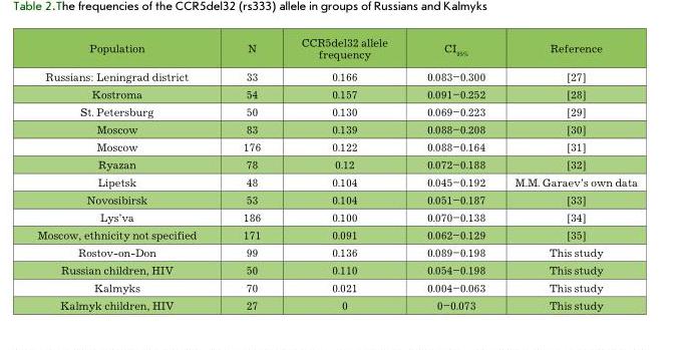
<table><thead><tr><td>Population</td><td>n</td><td>ccr5del32 allele frequency</td><td>cI<sub>95%</sub></td><td>reference</td></tr></thead><tbody><tr><td>russians: Leningrad district</td><td>33</td><td>0.166</td><td>0.083–0.300</td><td>[27]</td></tr><tr><td>Kostroma</td><td>54</td><td>0.157</td><td>0.091–0.252</td><td>[28]</td></tr><tr><td>St. Petersburg</td><td>50</td><td>0.130</td><td>0.069–0.223</td><td>[29]</td></tr><tr><td>Moscow</td><td>83</td><td>0.139</td><td>0.088–0.208</td><td>[30]</td></tr><tr><td>Moscow</td><td>176</td><td>0.122</td><td>0.088–0.164</td><td>[31]</td></tr><tr><td>ryazan</td><td>78</td><td>0.12</td><td>0.072–0.188</td><td>[32]</td></tr><tr><td>Lipetsk</td><td>48</td><td>0.104</td><td>0.045–0.192</td><td>M.M. Garaev’s own data</td></tr><tr><td>novosibirsk</td><td>53</td><td>0.104</td><td>0.051–0.187</td><td>[33]</td></tr><tr><td>Lys’va</td><td>186</td><td>0.100</td><td>0.070–0.138</td><td>[34]</td></tr><tr><td>Moscow, ethnicity not specified</td><td>171</td><td>0.091</td><td>0.062–0.129</td><td>[35]</td></tr><tr><td>rostov-on-Don</td><td>99</td><td>0.136</td><td>0.089–0.198</td><td>this study</td></tr><tr><td>russian children, HIV</td><td>50</td><td>0.110</td><td>0.054–0.198</td><td>this study</td></tr><tr><td>Kalmyks</td><td>70</td><td>0.021</td><td>0.004–0.063</td><td>this study</td></tr><tr><td>Kalmyk children, HIV</td><td>27</td><td>0</td><td>0–0.073</td><td>this study</td></tr></tbody></table>